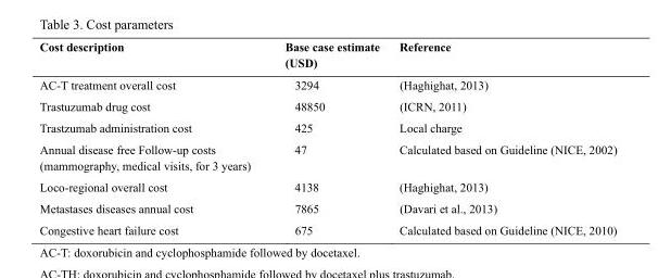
<table><thead><tr><td>Cost description</td><td>Base case estimate (USD)</td><td>Reference</td></tr></thead><tbody><tr><td>AC-T treatment overall cost</td><td>3294</td><td>(Haghighat, 2013)</td></tr><tr><td>Trastuzumab drug cost</td><td>48850</td><td>(ICRN, 2011)</td></tr><tr><td>Trastzumab administration cost</td><td>425</td><td>Local charge</td></tr><tr><td>Annual disease free Follow-up costs (mammography, medical visits, for 3 years)</td><td>47</td><td>Calculated based on Guideline (NICE, 2002)</td></tr><tr><td>Loco-regional overall cost</td><td>4138</td><td>(Haghighat, 2013)</td></tr><tr><td>Metastases diseases annual cost</td><td>7865</td><td>(Davari et al., 2013)</td></tr><tr><td>Congestive heart failure cost</td><td>675</td><td>Calculated based on Guideline (NICE, 2010)</td></tr></tbody></table>